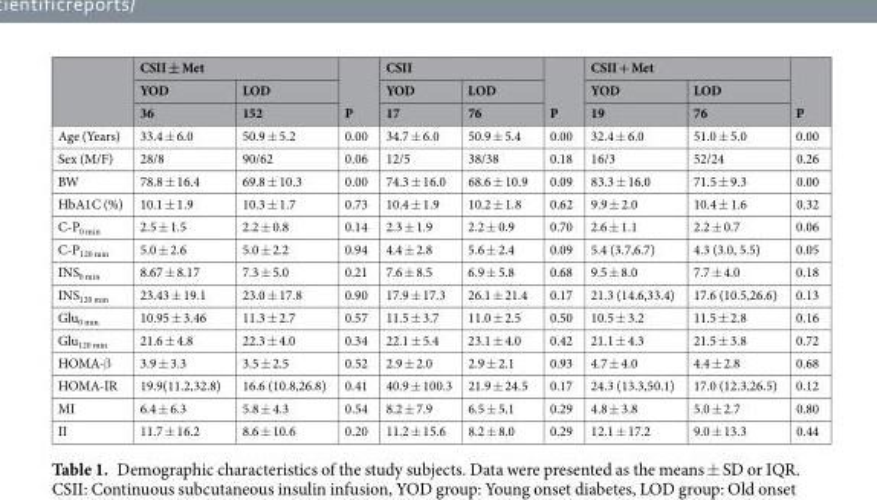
<table><thead><tr><td rowspan="3"></td><td colspan="2">CSII ± Met</td><td rowspan="3">P</td><td colspan="2">CSII</td><td rowspan="3">P</td><td colspan="2">CSII + Met</td><td rowspan="3">P</td></tr><tr><td rowspan="2">YOD 36</td><td rowspan="2">LOD 152</td><td rowspan="2">YOD 17</td><td rowspan="2">LOD 76</td><td rowspan="2">YOD 19</td><td rowspan="2">LOD 76</td></tr><tr></tr></thead><tbody><tr><td>Age (Years)</td><td>33.4 ± 6.0</td><td>50.9 ± 5.2</td><td>0.00</td><td>34.7 ± 6.0</td><td>50.9 ± 5.4</td><td>0.00</td><td>32.4 ± 6.0</td><td>51.0 ± 5.0</td><td>0.00</td></tr><tr><td>Sex (M/F)</td><td>28/8</td><td>90/62</td><td>0.06</td><td>12/5</td><td>38/38</td><td>0.18</td><td>16/3</td><td>52/24</td><td>0.26</td></tr><tr><td>BW</td><td>78.8 ± 16.4</td><td>69.8 ± 10.3</td><td>0.00</td><td>74.3 ± 16.0</td><td>68.6 ± 10.9</td><td>0.09</td><td>83.3 ± 16.0</td><td>71.5 ± 9.3</td><td>0.00</td></tr><tr><td>HbA1C (%)</td><td>10.1 ± 1.9</td><td>10.3 ± 1.7</td><td>0.73</td><td>10.4 ± 1.9</td><td>10.2 ± 1.8</td><td>0.62</td><td>9.9 ± 2.0</td><td>10.4 ± 1.6</td><td>0.32</td></tr><tr><td>C-P<sub>0 min</sub></td><td>2.5 ± 1.5</td><td>2.2 ± 0.8</td><td>0.14</td><td>2.3 ± 1.9</td><td>2.2 ± 0.9</td><td>0.70</td><td>2.6 ± 1.1</td><td>2.2 ± 0.7</td><td>0.06</td></tr><tr><td>C-P<sub>120 min</sub></td><td>5.0 ± 2.6</td><td>5.0 ± 2.2</td><td>0.94</td><td>4.4 ± 2.8</td><td>5.6 ± 2.4</td><td>0.09</td><td>5.4 (3.7,6.7)</td><td>4.3 (3.0, 5.5)</td><td>0.05</td></tr><tr><td>INS<sub>0 min</sub></td><td>8.67 ± 8.17</td><td>7.3 ± 5.0</td><td>0.21</td><td>7.6 ± 8.5</td><td>6.9 ± 5.8</td><td>0.68</td><td>9.5 ± 8.0</td><td>7.7 ± 4.0</td><td>0.18</td></tr><tr><td>INS<sub>120 min</sub></td><td>23.43 ± 19.1</td><td>23.0 ± 17.8</td><td>0.90</td><td>17.9 ± 17.3</td><td>26.1 ± 21.4</td><td>0.17</td><td>21.3 (14.6,33.4)</td><td>17.6 (10.5,26.6)</td><td>0.13</td></tr><tr><td>Glu<sub>0 min</sub></td><td>10.95 ± 3.46</td><td>11.3 ± 2.7</td><td>0.57</td><td>11.5 ± 3.7</td><td>11.0 ± 2.5</td><td>0.50</td><td>10.5 ± 3.2</td><td>11.5 ± 2.8</td><td>0.16</td></tr><tr><td>Glu<sub>120 min</sub></td><td>21.6 ± 4.8</td><td>22.3 ± 4.0</td><td>0.34</td><td>22.1 ± 5.4</td><td>23.1 ± 4.0</td><td>0.42</td><td>21.1 ± 4.3</td><td>21.5 ± 3.8</td><td>0.72</td></tr><tr><td>HOMA-β</td><td>3.9 ± 3.3</td><td>3.5 ± 2.5</td><td>0.52</td><td>2.9 ± 2.0</td><td>2.9 ± 2.1</td><td>0.93</td><td>4.7 ± 4.0</td><td>4.4 ± 2.8</td><td>0.68</td></tr><tr><td>HOMA-IR</td><td>19.9(11.2,32.8)</td><td>16.6 (10.8,26.8)</td><td>0.41</td><td>40.9 ± 100.3</td><td>21.9 ± 24.5</td><td>0.17</td><td>24.3 (13.3,50.1)</td><td>17.0 (12.3,26.5)</td><td>0.12</td></tr><tr><td>MI</td><td>6.4 ± 6.3</td><td>5.8 ± 4.3</td><td>0.54</td><td>8.2 ± 7.9</td><td>6.5 ± 5.1</td><td>0.29</td><td>4.8 ± 3.8</td><td>5.0 ± 2.7</td><td>0.80</td></tr><tr><td>II</td><td>11.7 ± 16.2</td><td>8.6 ± 10.6</td><td>0.20</td><td>11.2 ± 15.6</td><td>8.2 ± 8.0</td><td>0.29</td><td>12.1 ± 17.2</td><td>9.0 ± 13.3</td><td>0.44</td></tr></tbody></table>